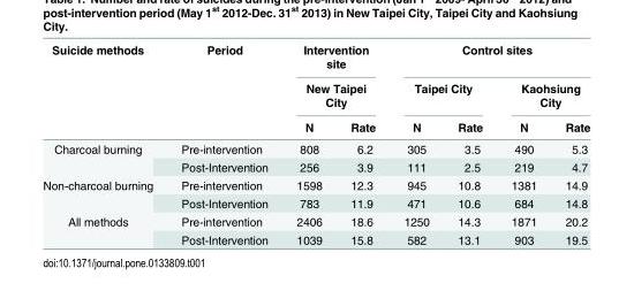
<table><thead><tr><td rowspan="3">Suicide methods</td><td rowspan="3">Period</td><td rowspan="2" colspan="2">Intervention site New Taipei City</td><td colspan="4">Control sites</td></tr><tr><td colspan="2">Taipei City</td><td colspan="2">Kaohsiung City</td></tr><tr><td>N</td><td>Rate</td><td>N</td><td>Rate</td><td>N</td><td>Rate</td></tr></thead><tbody><tr><td rowspan="2">Charcoal burning</td><td>Pre-intervention</td><td>808</td><td>6.2</td><td>305</td><td>3.5</td><td>490</td><td>5.3</td></tr><tr><td>Post-Intervention</td><td>256</td><td>3.9</td><td>111</td><td>2.5</td><td>219</td><td>4.7</td></tr><tr><td rowspan="2">Non-charcoal burning</td><td>Pre-intervention</td><td>1598</td><td>12.3</td><td>945</td><td>10.8</td><td>1381</td><td>14.9</td></tr><tr><td>Post-Intervention</td><td>783</td><td>11.9</td><td>471</td><td>10.6</td><td>684</td><td>14.8</td></tr><tr><td rowspan="2">All methods</td><td>Pre-intervention</td><td>2406</td><td>18.6</td><td>1250</td><td>14.3</td><td>1871</td><td>20.2</td></tr><tr><td>Post-Intervention</td><td>1039</td><td>15.8</td><td>582</td><td>13.1</td><td>903</td><td>19.5</td></tr></tbody></table>